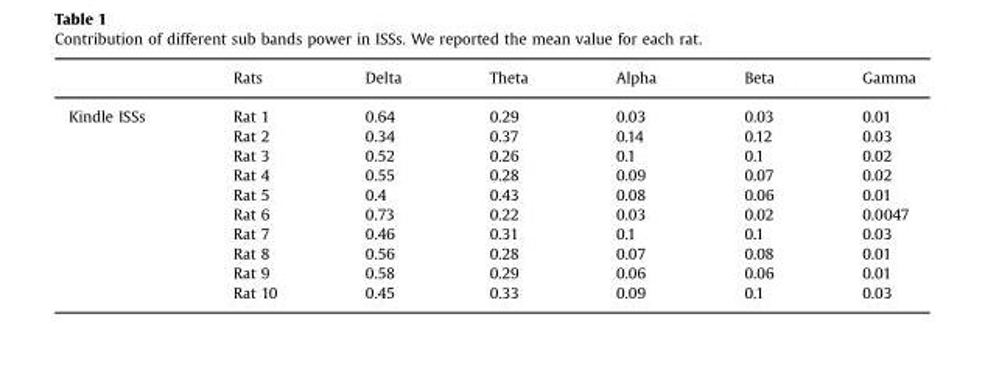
<table><thead><tr><td></td><td>Rats</td><td>Delta</td><td>Theta</td><td>Alpha</td><td>Beta</td><td>Gamma</td></tr></thead><tbody><tr><td rowspan="10">Kindle ISSs</td><td>Rat 1</td><td>0.64</td><td>0.29</td><td>0.03</td><td>0.03</td><td>0.01</td></tr><tr><td>Rat 2</td><td>0.34</td><td>0.37</td><td>0.14</td><td>0.12</td><td>0.03</td></tr><tr><td>Rat 3</td><td>0.52</td><td>0.26</td><td>0.1</td><td>0.1</td><td>0.02</td></tr><tr><td>Rat 4</td><td>0.55</td><td>0.28</td><td>0.09</td><td>0.07</td><td>0.02</td></tr><tr><td>Rat 5</td><td>0.4</td><td>0.43</td><td>0.08</td><td>0.06</td><td>0.01</td></tr><tr><td>Rat 6</td><td>0.73</td><td>0.22</td><td>0.03</td><td>0.02</td><td>0.0047</td></tr><tr><td>Rat 7</td><td>0.46</td><td>0.31</td><td>0.1</td><td>0.1</td><td>0.03</td></tr><tr><td>Rat 8</td><td>0.56</td><td>0.28</td><td>0.07</td><td>0.08</td><td>0.01</td></tr><tr><td>Rat 9</td><td>0.58</td><td>0.29</td><td>0.06</td><td>0.06</td><td>0.01</td></tr><tr><td>Rat 10</td><td>0.45</td><td>0.33</td><td>0.09</td><td>0.1</td><td>0.03</td></tr></tbody></table>